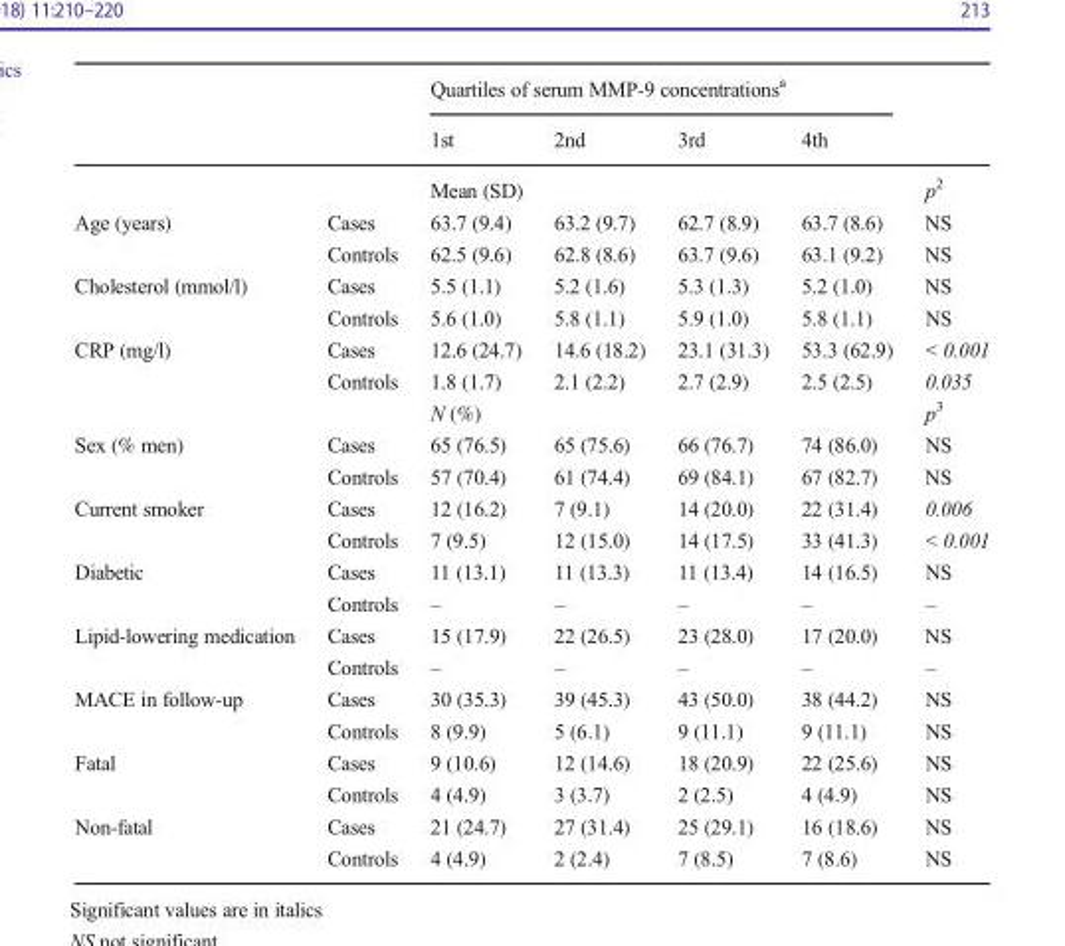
<table><thead><tr><td rowspan="2"></td><td rowspan="2"></td><td colspan="4">Quartiles of serum MMP-9 concentrations<sup>a</sup></td><td rowspan="2"></td></tr><tr><td>1st</td><td>2nd</td><td>3rd</td><td>4th</td></tr></thead><tbody><tr><td></td><td></td><td colspan="4">Mean (SD)</td><td>p<sup>2</sup></td></tr><tr><td rowspan="2">Age (years)</td><td>Cases</td><td>63.7 (9.4)</td><td>63.2 (9.7)</td><td>62.7 (8.9)</td><td>63.7 (8.6)</td><td>NS</td></tr><tr><td>Controls</td><td>62.5 (9.6)</td><td>62.8 (8.6)</td><td>63.7 (9.6)</td><td>63.1 (9.2)</td><td>NS</td></tr><tr><td rowspan="2">Cholesterol (mmol/l)</td><td>Cases</td><td>5.5 (1.1)</td><td>5.2 (1.6)</td><td>5.3 (1.3)</td><td>5.2 (1.0)</td><td>NS</td></tr><tr><td>Controls</td><td>5.6 (1.0)</td><td>5.8 (1.1)</td><td>5.9 (1.0)</td><td>5.8 (1.1)</td><td>NS</td></tr><tr><td rowspan="3">CRP (mg/l)</td><td>Cases</td><td>12.6 (24.7)</td><td>14.6 (18.2)</td><td>23.1 (31.3)</td><td>53.3 (62.9)</td><td>&lt; 0.001</td></tr><tr><td>Controls</td><td>1.8 (1.7)</td><td>2.1 (2.2)</td><td>2.7 (2.9)</td><td>2.5 (2.5)</td><td>0.035</td></tr><tr><td></td><td colspan="4">N (%)</td><td>p<sup>3</sup></td></tr><tr><td rowspan="2">Sex (% men)</td><td>Cases</td><td>65 (76.5)</td><td>65 (75.6)</td><td>66 (76.7)</td><td>74 (86.0)</td><td>NS</td></tr><tr><td>Controls</td><td>57 (70.4)</td><td>61 (74.4)</td><td>69 (84.1)</td><td>67 (82.7)</td><td>NS</td></tr><tr><td rowspan="2">Current smoker</td><td>Cases</td><td>12 (16.2)</td><td>7 (9.1)</td><td>14 (20.0)</td><td>22 (31.4)</td><td>0.006</td></tr><tr><td>Controls</td><td>7 (9.5)</td><td>12 (15.0)</td><td>14 (17.5)</td><td>33 (41.3)</td><td>&lt; 0.001</td></tr><tr><td rowspan="2">Diabetic</td><td>Cases</td><td>11 (13.1)</td><td>11 (13.3)</td><td>11 (13.4)</td><td>14 (16.5)</td><td>NS</td></tr><tr><td>Controls</td><td>–</td><td>–</td><td>–</td><td>–</td><td>–</td></tr><tr><td rowspan="2">Lipid-lowering medication</td><td>Cases</td><td>15 (17.9)</td><td>22 (26.5)</td><td>23 (28.0)</td><td>17 (20.0)</td><td>NS</td></tr><tr><td>Controls</td><td>–</td><td>–</td><td>–</td><td>–</td><td>–</td></tr><tr><td rowspan="2">MACE in follow-up</td><td>Cases</td><td>30 (35.3)</td><td>39 (45.3)</td><td>43 (50.0)</td><td>38 (44.2)</td><td>NS</td></tr><tr><td>Controls</td><td>8 (9.9)</td><td>5 (6.1)</td><td>9 (11.1)</td><td>9 (11.1)</td><td>NS</td></tr><tr><td rowspan="2">Fatal</td><td>Cases</td><td>9 (10.6)</td><td>12 (14.6)</td><td>18 (20.9)</td><td>22 (25.6)</td><td>NS</td></tr><tr><td>Controls</td><td>4 (4.9)</td><td>3 (3.7)</td><td>2 (2.5)</td><td>4 (4.9)</td><td>NS</td></tr><tr><td rowspan="2">Non-fatal</td><td>Cases</td><td>21 (24.7)</td><td>27 (31.4)</td><td>25 (29.1)</td><td>16 (18.6)</td><td>NS</td></tr><tr><td>Controls</td><td>4 (4.9)</td><td>2 (2.4)</td><td>7 (8.5)</td><td>7 (8.6)</td><td>NS</td></tr></tbody></table>